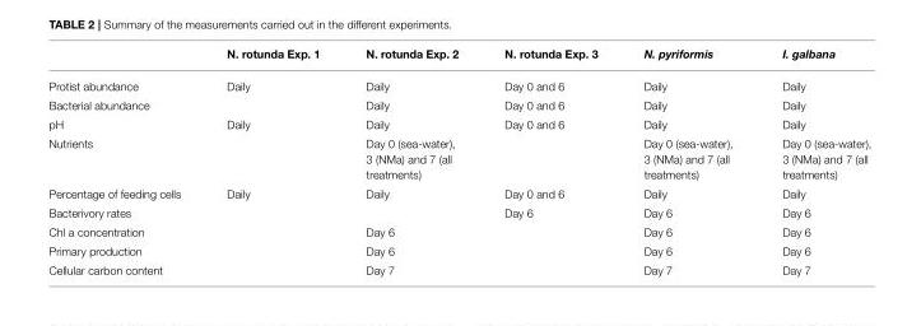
<table><thead><tr><td></td><td>N. rotunda Exp. 1</td><td>N. rotunda Exp. 2</td><td>N. rotunda Exp. 3</td><td>N. pyriformis</td><td>I. galbana</td></tr></thead><tbody><tr><td>Protist abundance</td><td>Daily</td><td>Daily</td><td>Day 0 and 6</td><td>Daily</td><td>Daily</td></tr><tr><td>Bacterial abundance</td><td></td><td>Daily</td><td>Day 0 and 6</td><td>Daily</td><td>Daily</td></tr><tr><td>pH</td><td>Daily</td><td>Daily</td><td>Day 0 and 6</td><td>Daily</td><td>Daily</td></tr><tr><td>Nutrients</td><td></td><td>Day 0 (sea-water), 3 (NMa) and 7 (all treatments)</td><td></td><td>Day 0 (sea-water), 3 (NMa) and 7 (all treatments)</td><td>Day 0 (sea-water), 3 (NMa) and 7 (all treatments)</td></tr><tr><td>Percentage of feeding cells</td><td>Daily</td><td>Daily</td><td>Day 0 and 6</td><td>Daily</td><td>Daily</td></tr><tr><td>Bacterivory rates</td><td></td><td></td><td>Day 6</td><td>Day 6</td><td>Day 6</td></tr><tr><td>Chl a concentration</td><td></td><td>Day 6</td><td></td><td>Day 6</td><td>Day 6</td></tr><tr><td>Primary production</td><td></td><td>Day 6</td><td></td><td>Day 6</td><td>Day 6</td></tr><tr><td>Cellular carbon content</td><td></td><td>Day 7</td><td></td><td>Day 7</td><td>Day 7</td></tr></tbody></table>